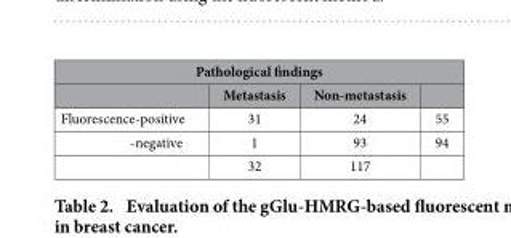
<table><thead><tr><td colspan="4">Pathological findings</td></tr><tr><td></td><td>Metastasis</td><td>Non-metastasis</td><td></td></tr></thead><tbody><tr><td>Fluorescence-positive</td><td>31</td><td>24</td><td>55</td></tr><tr><td rowspan="2">-negative</td><td>1</td><td>93</td><td>94</td></tr><tr><td>32</td><td>117</td><td></td></tr></tbody></table>